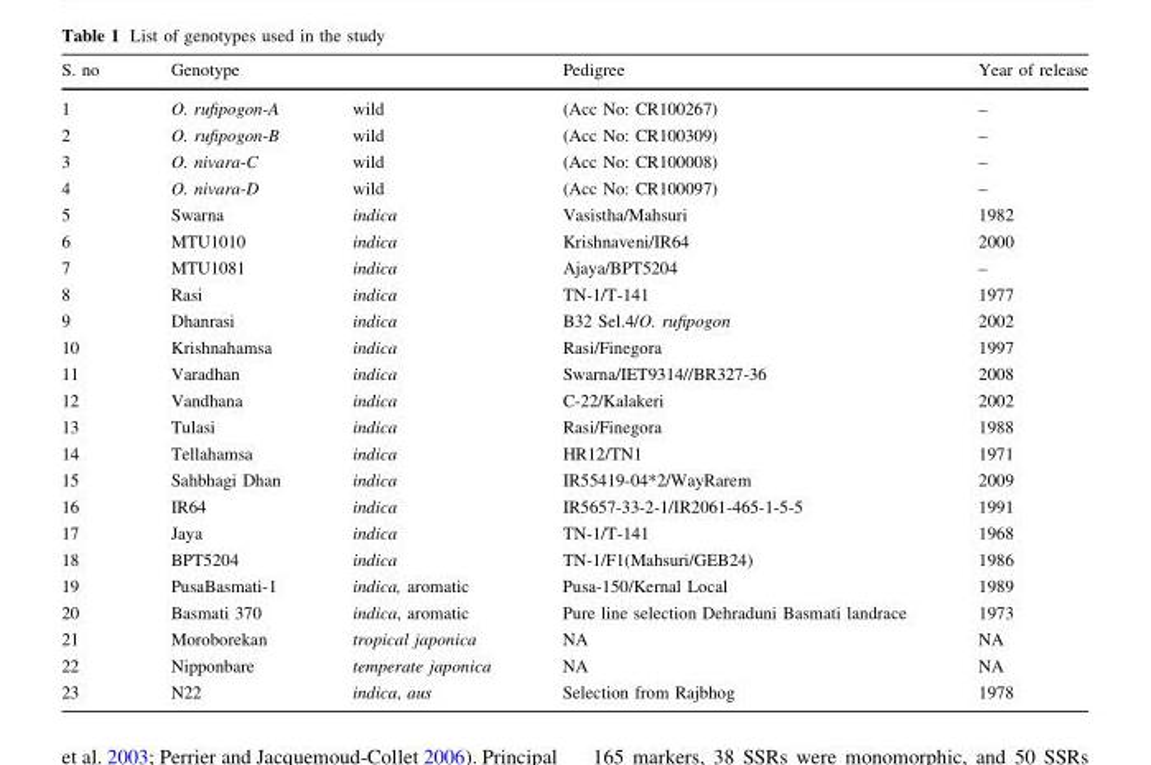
<table><thead><tr><td>S. no</td><td>Genotype</td><td></td><td>Pedigree</td><td>Year of release</td></tr></thead><tbody><tr><td>1</td><td>O. rufipogon-A</td><td>wild</td><td>(Acc No: CR100267)</td><td>–</td></tr><tr><td>2</td><td>O. rufipogon-B</td><td>wild</td><td>(Acc No: CR100309)</td><td>–</td></tr><tr><td>3</td><td>O. nivara-C</td><td>wild</td><td>(Acc No: CR100008)</td><td>–</td></tr><tr><td>4</td><td>O. nivara-D</td><td>wild</td><td>(Acc No: CR100097)</td><td>–</td></tr><tr><td>5</td><td>Swarna</td><td>indica</td><td>Vasistha/Mahsuri</td><td>1982</td></tr><tr><td>6</td><td>MTU1010</td><td>indica</td><td>Krishnaveni/IR64</td><td>2000</td></tr><tr><td>7</td><td>MTU1081</td><td>indica</td><td>Ajaya/BPT5204</td><td>–</td></tr><tr><td>8</td><td>Rasi</td><td>indica</td><td>TN-1/T-141</td><td>1977</td></tr><tr><td>9</td><td>Dhanrasi</td><td>indica</td><td>B32 Sel.4/O. rufipogon</td><td>2002</td></tr><tr><td>10</td><td>Krishnahamsa</td><td>indica</td><td>Rasi/Finegora</td><td>1997</td></tr><tr><td>11</td><td>Varadhan</td><td>indica</td><td>Swarna/IET9314//BR327-36</td><td>2008</td></tr><tr><td>12</td><td>Vandhana</td><td>indica</td><td>C-22/Kalakeri</td><td>2002</td></tr><tr><td>13</td><td>Tulasi</td><td>indica</td><td>Rasi/Finegora</td><td>1988</td></tr><tr><td>14</td><td>Tellahamsa</td><td>indica</td><td>HR12/TN1</td><td>1971</td></tr><tr><td>15</td><td>Sahbhagi Dhan</td><td>indica</td><td>IR55419-04*2/WayRarem</td><td>2009</td></tr><tr><td>16</td><td>IR64</td><td>indica</td><td>IR5657-33-2-1/IR2061-465-1-5-5</td><td>1991</td></tr><tr><td>17</td><td>Jaya</td><td>indica</td><td>TN-1/T-141</td><td>1968</td></tr><tr><td>18</td><td>BPT5204</td><td>indica</td><td>TN-1/F1(Mahsuri/GEB24)</td><td>1986</td></tr><tr><td>19</td><td>PusaBasmati-1</td><td>indica, aromatic</td><td>Pusa-150/Kernal Local</td><td>1989</td></tr><tr><td>20</td><td>Basmati 370</td><td>indica, aromatic</td><td>Pure line selection Dehraduni Basmati landrace</td><td>1973</td></tr><tr><td>21</td><td>Moroborekan</td><td>tropical japonica</td><td>NA</td><td>NA</td></tr><tr><td>22</td><td>Nipponbare</td><td>temperate japonica</td><td>NA</td><td>NA</td></tr><tr><td>23</td><td>N22</td><td>indica, aus</td><td>Selection from Rajbhog</td><td>1978</td></tr></tbody></table>